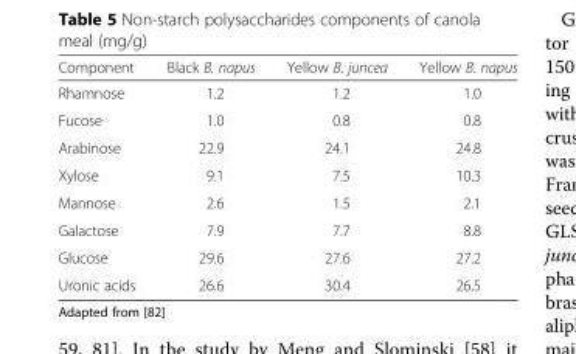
<table><thead><tr><td>Component</td><td>Black B. napus</td><td>Yellow B. juncea</td><td>Yellow B. napus</td></tr></thead><tbody><tr><td>Rhamnose</td><td>1.2</td><td>1.2</td><td>1.0</td></tr><tr><td>Fucose</td><td>1.0</td><td>0.8</td><td>0.8</td></tr><tr><td>Arabinose</td><td>22.9</td><td>24.1</td><td>24.8</td></tr><tr><td>Xylose</td><td>9.1</td><td>7.5</td><td>10.3</td></tr><tr><td>Mannose</td><td>2.6</td><td>1.5</td><td>2.1</td></tr><tr><td>Galactose</td><td>7.9</td><td>7.7</td><td>8.8</td></tr><tr><td>Glucose</td><td>29.6</td><td>27.6</td><td>27.2</td></tr><tr><td>Uronic acids</td><td>26.6</td><td>30.4</td><td>26.5</td></tr></tbody></table>